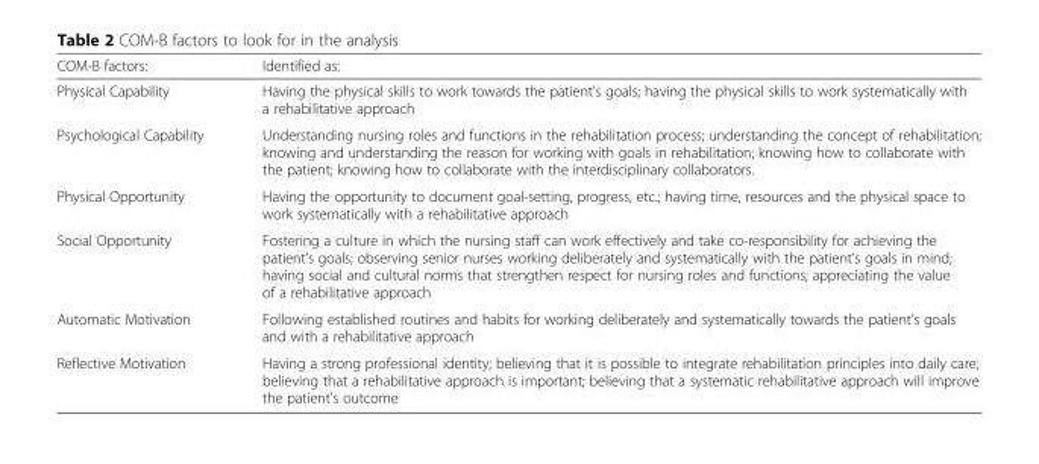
<table><thead><tr><td>COM-B factors:</td><td>Identified as:</td></tr></thead><tbody><tr><td>Physical Capability</td><td>Having the physical skills to work towards the patient’s goals; having the physical skills to work systematically with a rehabilitative approach</td></tr><tr><td>Psychological Capability</td><td>Understanding nursing roles and functions in the rehabilitation process; understanding the concept of rehabilitation; knowing and understanding the reason for working with goals in rehabilitation; knowing how to collaborate with the patient; knowing how to collaborate with the interdisciplinary collaborators.</td></tr><tr><td>Physical Opportunity</td><td>Having the opportunity to document goal-setting, progress, etc.; having time, resources and the physical space to work systematically with a rehabilitative approach</td></tr><tr><td>Social Opportunity</td><td>Fostering a culture in which the nursing staff can work effectively and take co-responsibility for achieving the patient’s goals; observing senior nurses working deliberately and systematically with the patient’s goals in mind; having social and cultural norms that strengthen respect for nursing roles and functions; appreciating the value of a rehabilitative approach</td></tr><tr><td>Automatic Motivation</td><td>Following established routines and habits for working deliberately and systematically towards the patient’s goals and with a rehabilitative approach</td></tr><tr><td>Reflective Motivation</td><td>Having a strong professional identity; believing that it is possible to integrate rehabilitation principles into daily care; believing that a rehabilitative approach is important; believing that a systematic rehabilitative approach will improve the patient’s outcome</td></tr></tbody></table>